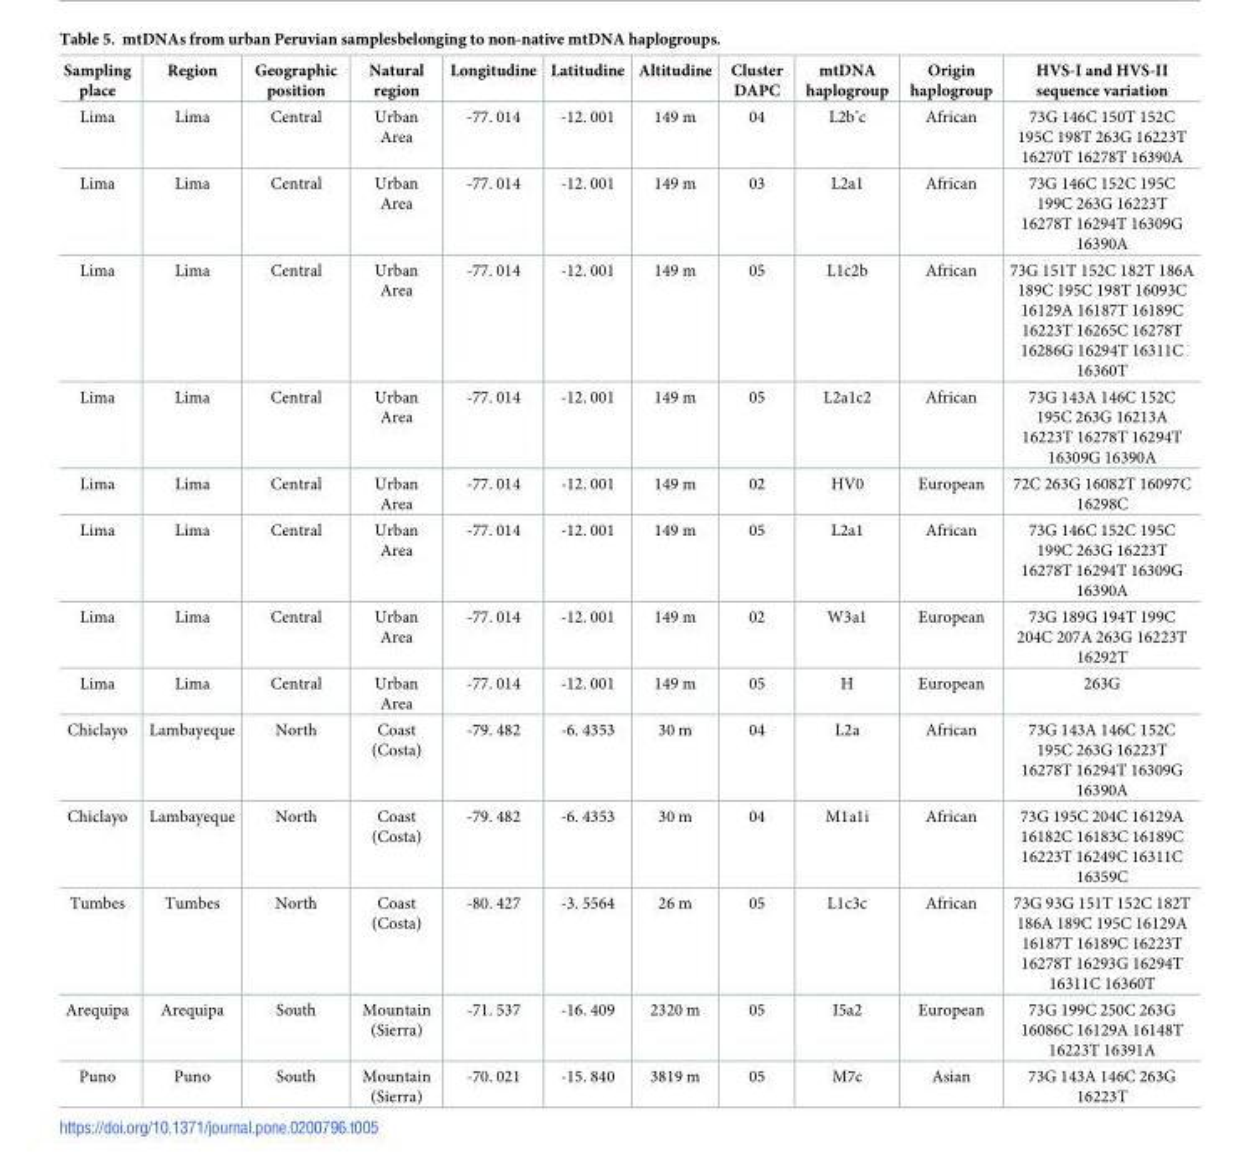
<table><thead><tr><td>Sampling place</td><td>Region</td><td>Geographic position</td><td>Natural region</td><td>Longitudine</td><td>Latitudine</td><td>Altitudine</td><td>Cluster DAPC</td><td>mtDNA haplogroup</td><td>Origin haplogroup</td><td>HVS-I and HVS-II sequence variation</td></tr></thead><tbody><tr><td>Lima</td><td>Lima</td><td>Central</td><td>Urban Area</td><td>-77. 014</td><td>-12. 001</td><td>149 m</td><td>04</td><td>L2b’c</td><td>African</td><td>73G 146C 150T 152C 195C 198T 263G 16223T 16270T 16278T 16390A</td></tr><tr><td>Lima</td><td>Lima</td><td>Central</td><td>Urban Area</td><td>-77. 014</td><td>-12. 001</td><td>149 m</td><td>03</td><td>L2a1</td><td>African</td><td>73G 146C 152C 195C 199C 263G 16223T 16278T 16294T 16309G 16390A</td></tr><tr><td>Lima</td><td>Lima</td><td>Central</td><td>Urban Area</td><td>-77. 014</td><td>-12. 001</td><td>149 m</td><td>05</td><td>L1c2b</td><td>African</td><td>73G 151T 152C 182T 186A 189C 195C 198T 16093C 16129A 16187T 16189C 16223T 16265C 16278T 16286G 16294T 16311C 16360T</td></tr><tr><td>Lima</td><td>Lima</td><td>Central</td><td>Urban Area</td><td>-77. 014</td><td>-12. 001</td><td>149 m</td><td>05</td><td>L2a1c2</td><td>African</td><td>73G 143A 146C 152C 195C 263G 16213A 16223T 16278T 16294T 16309G 16390A</td></tr><tr><td>Lima</td><td>Lima</td><td>Central</td><td>Urban Area</td><td>-77. 014</td><td>-12. 001</td><td>149 m</td><td>02</td><td>HV0</td><td>European</td><td>72C 263G 16082T 16097C 16298C</td></tr><tr><td>Lima</td><td>Lima</td><td>Central</td><td>Urban Area</td><td>-77. 014</td><td>-12. 001</td><td>149 m</td><td>05</td><td>L2a1</td><td>African</td><td>73G 146C 152C 195C 199C 263G 16223T 16278T 16294T 16309G 16390A</td></tr><tr><td>Lima</td><td>Lima</td><td>Central</td><td>Urban Area</td><td>-77. 014</td><td>-12. 001</td><td>149 m</td><td>02</td><td>W3a1</td><td>European</td><td>73G 189G 194T 199C 204C 207A 263G 16223T 16292T</td></tr><tr><td>Lima</td><td>Lima</td><td>Central</td><td>Urban Area</td><td>-77. 014</td><td>-12. 001</td><td>149 m</td><td>05</td><td>H</td><td>European</td><td>263G</td></tr><tr><td>Chiclayo</td><td>Lambayeque</td><td>North</td><td>Coast (Costa)</td><td>-79. 482</td><td>-6. 4353</td><td>30 m</td><td>04</td><td>L2a</td><td>African</td><td>73G 143A 146C 152C 195C 263G 16223T 16278T 16294T 16309G 16390A</td></tr><tr><td>Chiclayo</td><td>Lambayeque</td><td>North</td><td>Coast (Costa)</td><td>-79. 482</td><td>-6. 4353</td><td>30 m</td><td>04</td><td>M1a1i</td><td>African</td><td>73G 195C 204C 16129A 16182C 16183C 16189C 16223T 16249C 16311C 16359C</td></tr><tr><td>Tumbes</td><td>Tumbes</td><td>North</td><td>Coast (Costa)</td><td>-80. 427</td><td>-3. 5564</td><td>26 m</td><td>05</td><td>L1c3c</td><td>African</td><td>73G 93G 151T 152C 182T 186A 189C 195C 16129A 16187T 16189C 16223T 16278T 16293G 16294T 16311C 16360T</td></tr><tr><td>Arequipa</td><td>Arequipa</td><td>South</td><td>Mountain (Sierra)</td><td>-71. 537</td><td>-16. 409</td><td>2320 m</td><td>05</td><td>I5a2</td><td>European</td><td>73G 199C 250C 263G 16086C 16129A 16148T 16223T 16391A</td></tr><tr><td>Puno</td><td>Puno</td><td>South</td><td>Mountain (Sierra)</td><td>-70. 021</td><td>-15. 840</td><td>3819 m</td><td>05</td><td>M7c</td><td>Asian</td><td>73G 143A 146C 263G 16223T</td></tr></tbody></table>